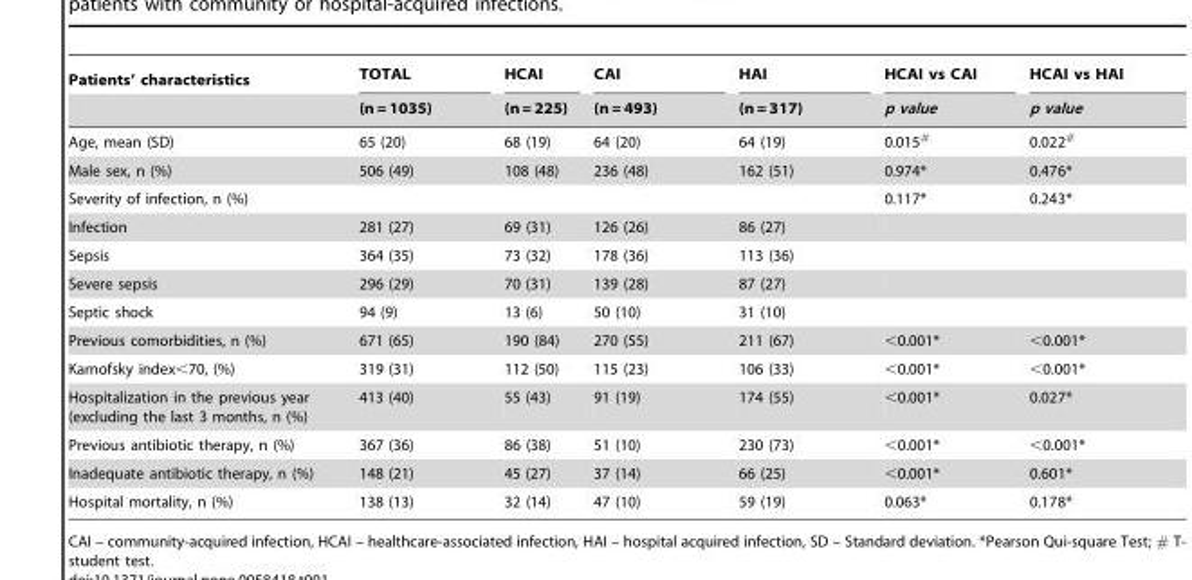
<table><thead><tr><td rowspan="2">Patients’ characteristics</td><td rowspan="2">TOTAL (n = 1035)</td><td rowspan="2">HCAI (n = 225)</td><td rowspan="2">CAI (n = 493)</td><td rowspan="2">HAI (n = 317)</td><td rowspan="2">HCAI vs CAI p value</td><td rowspan="2">HCAI vs HAI p value</td></tr><tr></tr></thead><tbody><tr><td>Age, mean (SD)</td><td>65 (20)</td><td>68 (19)</td><td>64 (20)</td><td>64 (19)</td><td>0.015<sup>#</sup></td><td>0.022<sup>#</sup></td></tr><tr><td>Male sex, n (%)</td><td>506 (49)</td><td>108 (48)</td><td>236 (48)</td><td>162 (51)</td><td>0.974*</td><td>0.476*</td></tr><tr><td>Severity of infection, n (%)</td><td></td><td></td><td></td><td></td><td>0.117*</td><td>0.243*</td></tr><tr><td>Infection</td><td>281 (27)</td><td>69 (31)</td><td>126 (26)</td><td>86 (27)</td><td></td><td></td></tr><tr><td>Sepsis</td><td>364 (35)</td><td>73 (32)</td><td>178 (36)</td><td>113 (36)</td><td></td><td></td></tr><tr><td>Severe sepsis</td><td>296 (29)</td><td>70 (31)</td><td>139 (28)</td><td>87 (27)</td><td></td><td></td></tr><tr><td>Septic shock</td><td>94 (9)</td><td>13 (6)</td><td>50 (10)</td><td>31 (10)</td><td></td><td></td></tr><tr><td>Previous comorbidities, n (%)</td><td>671 (65)</td><td>190 (84)</td><td>270 (55)</td><td>211 (67)</td><td>&lt;0.001*</td><td>&lt;0.001*</td></tr><tr><td>Karnofsky index&lt;70, (%)</td><td>319 (31)</td><td>112 (50)</td><td>115 (23)</td><td>106 (33)</td><td>&lt;0.001*</td><td>&lt;0.001*</td></tr><tr><td>Hospitalization in the previous year (excluding the last 3 months, n (%)</td><td>413 (40)</td><td>55 (43)</td><td>91 (19)</td><td>174 (55)</td><td>&lt;0.001*</td><td>0.027*</td></tr><tr><td>Previous antibiotic therapy, n (%)</td><td>367 (36)</td><td>86 (38)</td><td>51 (10)</td><td>230 (73)</td><td>&lt;0.001*</td><td>&lt;0.001*</td></tr><tr><td>Inadequate antibiotic therapy, n (%)</td><td>148 (21)</td><td>45 (27)</td><td>37 (14)</td><td>66 (25)</td><td>&lt;0.001*</td><td>0.601*</td></tr><tr><td>Hospital mortality, n (%)</td><td>138 (13)</td><td>32 (14)</td><td>47 (10)</td><td>59 (19)</td><td>0.063*</td><td>0.178*</td></tr></tbody></table>